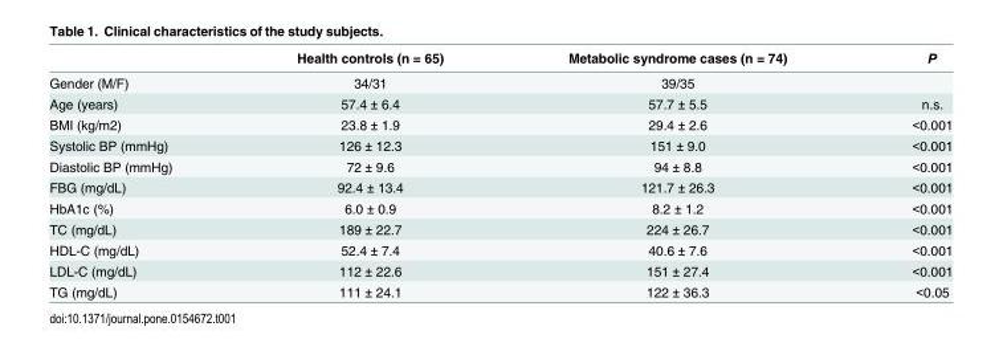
<table><thead><tr><td></td><td>Health controls (n = 65)</td><td>Metabolic syndrome cases (n = 74)</td><td>P</td></tr></thead><tbody><tr><td>Gender (M/F)</td><td>34/31</td><td>39/35</td><td></td></tr><tr><td>Age (years)</td><td>57.4 ± 6.4</td><td>57.7 ± 5.5</td><td>n.s.</td></tr><tr><td>BMI (kg/m2)</td><td>23.8 ± 1.9</td><td>29.4 ± 2.6</td><td>&lt;0.001</td></tr><tr><td>Systolic BP (mmHg)</td><td>126 ± 12.3</td><td>151 ± 9.0</td><td>&lt;0.001</td></tr><tr><td>Diastolic BP (mmHg)</td><td>72 ± 9.6</td><td>94 ± 8.8</td><td>&lt;0.001</td></tr><tr><td>FBG (mg/dL)</td><td>92.4 ± 13.4</td><td>121.7 ± 26.3</td><td>&lt;0.001</td></tr><tr><td>HbA1c (%)</td><td>6.0 ± 0.9</td><td>8.2 ± 1.2</td><td>&lt;0.001</td></tr><tr><td>TC (mg/dL)</td><td>189 ± 22.7</td><td>224 ± 26.7</td><td>&lt;0.001</td></tr><tr><td>HDL-C (mg/dL)</td><td>52.4 ± 7.4</td><td>40.6 ± 7.6</td><td>&lt;0.001</td></tr><tr><td>LDL-C (mg/dL)</td><td>112 ± 22.6</td><td>151 ± 27.4</td><td>&lt;0.001</td></tr><tr><td>TG (mg/dL)</td><td>111 ± 24.1</td><td>122 ± 36.3</td><td>&lt;0.05</td></tr></tbody></table>